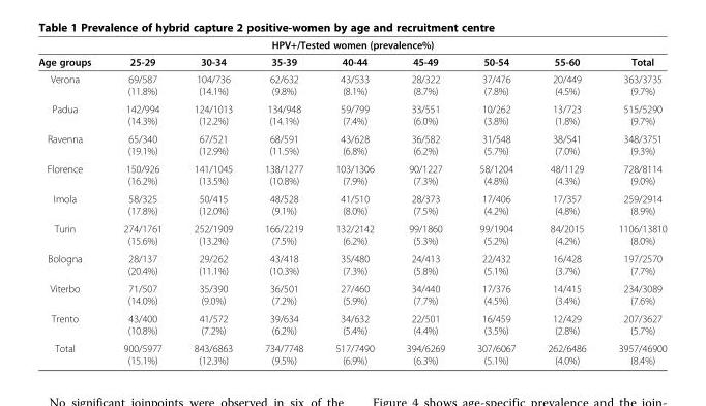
<table><thead><tr><td colspan="9">HPV+/Tested women (prevalence%)</td></tr><tr><td>Age groups</td><td>25-29</td><td>30-34</td><td>35-39</td><td>40-44</td><td>45-49</td><td>50-54</td><td>55-60</td><td>Total</td></tr></thead><tbody><tr><td>Verona</td><td>69/587 (11.8%)</td><td>104/736 (14.1%)</td><td>62/632 (9.8%)</td><td>43/533 (8.1%)</td><td>28/322 (8.7%)</td><td>37/476 (7.8%)</td><td>20/449 (4.5%)</td><td>363/3735 (9.7%)</td></tr><tr><td>Padua</td><td>142/994 (14.3%)</td><td>124/1013 (12.2%)</td><td>134/948 (14.1%)</td><td>59/799 (7.4%)</td><td>33/551 (6.0%)</td><td>10/262 (3.8%)</td><td>13/723 (1.8%)</td><td>515/5290 (9.7%)</td></tr><tr><td>Ravenna</td><td>65/340 (19.1%)</td><td>67/521 (12.9%)</td><td>68/591 (11.5%)</td><td>43/628 (6.8%)</td><td>36/582 (6.2%)</td><td>31/548 (5.7%)</td><td>38/541 (7.0%)</td><td>348/3751 (9.3%)</td></tr><tr><td>Florence</td><td>150/926 (16.2%)</td><td>141/1045 (13.5%)</td><td>138/1277 (10.8%)</td><td>103/1306 (7.9%)</td><td>90/1227 (7.3%)</td><td>58/1204 (4.8%)</td><td>48/1129 (4.3%)</td><td>728/8114 (9.0%)</td></tr><tr><td>Imola</td><td>58/325 (17.8%)</td><td>50/415 (12.0%)</td><td>48/528 (9.1%)</td><td>41/510 (8.0%)</td><td>28/373 (7.5%)</td><td>17/406 (4.2%)</td><td>17/357 (4.8%)</td><td>259/2914 (8.9%)</td></tr><tr><td>Turin</td><td>274/1761 (15.6%)</td><td>252/1909 (13.2%)</td><td>166/2219 (7.5%)</td><td>132/2142 (6.2%)</td><td>99/1860 (5.3%)</td><td>99/1904 (5.2%)</td><td>84/2015 (4.2%)</td><td>1106/13810 (8.0%)</td></tr><tr><td>Bologna</td><td>28/137 (20.4%)</td><td>29/262 (11.1%)</td><td>43/418 (10.3%)</td><td>35/480 (7.3%)</td><td>24/413 (5.8%)</td><td>22/432 (5.1%)</td><td>16/428 (3.7%)</td><td>197/2570 (7.7%)</td></tr><tr><td>Viterbo</td><td>71/507 (14.0%)</td><td>35/390 (9.0%)</td><td>36/501 (7.2%)</td><td>27/460 (5.9%)</td><td>34/440 (7.7%)</td><td>17/376 (4.5%)</td><td>14/415 (3.4%)</td><td>234/3089 (7.6%)</td></tr><tr><td>Trento</td><td>43/400 (10.8%)</td><td>41/572 (7.2%)</td><td>39/634 (6.2%)</td><td>34/632 (5.4%)</td><td>22/501 (4.4%)</td><td>16/459 (3.5%)</td><td>12/429 (2.8%)</td><td>207/3627 (5.7%)</td></tr><tr><td>Total</td><td>900/5977 (15.1%)</td><td>843/6863 (12.3%)</td><td>734/7748 (9.5%)</td><td>517/7490 (6.9%)</td><td>394/6269 (6.3%)</td><td>307/6067 (5.1%)</td><td>262/6486 (4.0%)</td><td>3957/46900 (8.4%)</td></tr></tbody></table>